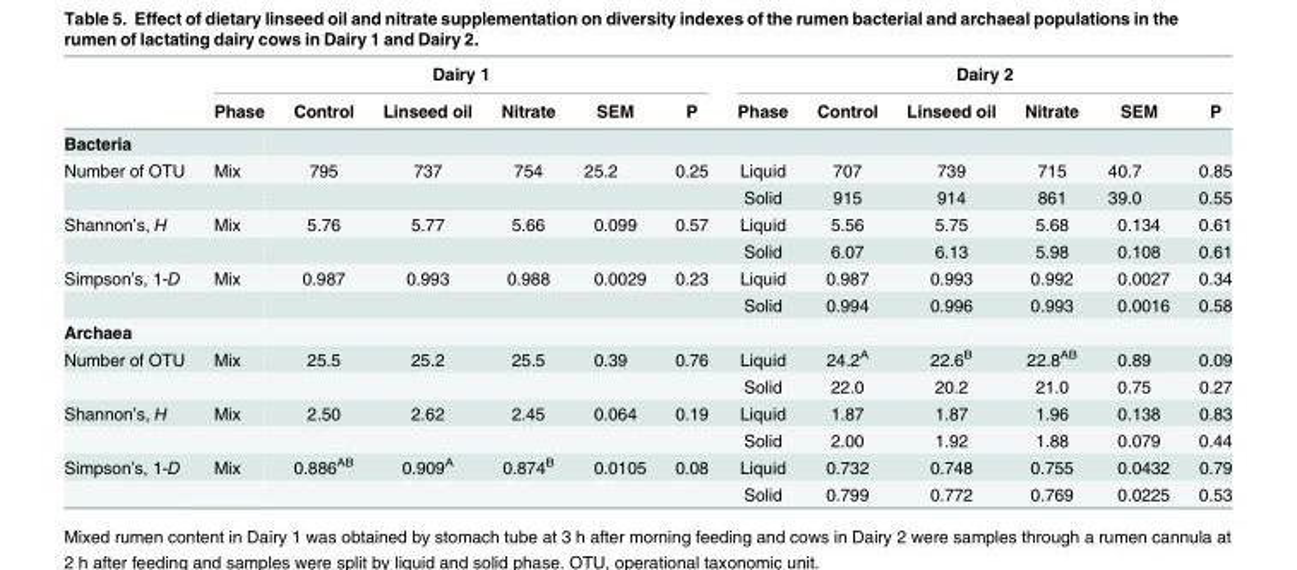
<table><thead><tr><td rowspan="2"></td><td colspan="6">Dairy 1</td><td colspan="6">Dairy 2</td></tr><tr><td>Phase</td><td>Control</td><td>Linseed oil</td><td>Nitrate</td><td>SEM</td><td>P</td><td>Phase</td><td>Control</td><td>Linseed oil</td><td>Nitrate</td><td>SEM</td><td>P</td></tr></thead><tbody><tr><td colspan="13">Bacteria</td></tr><tr><td rowspan="2">Number of OTU</td><td>Mix</td><td>795</td><td>737</td><td>754</td><td>25.2</td><td>0.25</td><td>Liquid</td><td>707</td><td>739</td><td>715</td><td>40.7</td><td>0.85</td></tr><tr><td></td><td></td><td></td><td></td><td></td><td></td><td>Solid</td><td>915</td><td>914</td><td>861</td><td>39.0</td><td>0.55</td></tr><tr><td rowspan="2">Shannon’s, H</td><td>Mix</td><td>5.76</td><td>5.77</td><td>5.66</td><td>0.099</td><td>0.57</td><td>Liquid</td><td>5.56</td><td>5.75</td><td>5.68</td><td>0.134</td><td>0.61</td></tr><tr><td></td><td></td><td></td><td></td><td></td><td></td><td>Solid</td><td>6.07</td><td>6.13</td><td>5.98</td><td>0.108</td><td>0.61</td></tr><tr><td rowspan="2">Simpson’s, 1-D</td><td>Mix</td><td>0.987</td><td>0.993</td><td>0.988</td><td>0.0029</td><td>0.23</td><td>Liquid</td><td>0.987</td><td>0.993</td><td>0.992</td><td>0.0027</td><td>0.34</td></tr><tr><td></td><td></td><td></td><td></td><td></td><td></td><td>Solid</td><td>0.994</td><td>0.996</td><td>0.993</td><td>0.0016</td><td>0.58</td></tr><tr><td colspan="13">Archaea</td></tr><tr><td rowspan="2">Number of OTU</td><td>Mix</td><td>25.5</td><td>25.2</td><td>25.5</td><td>0.39</td><td>0.76</td><td>Liquid</td><td>24.2<sup>A</sup></td><td>22.6<sup>B</sup></td><td>22.8<sup>AB</sup></td><td>0.89</td><td>0.09</td></tr><tr><td></td><td></td><td></td><td></td><td></td><td></td><td>Solid</td><td>22.0</td><td>20.2</td><td>21.0</td><td>0.75</td><td>0.27</td></tr><tr><td rowspan="2">Shannon’s, H</td><td>Mix</td><td>2.50</td><td>2.62</td><td>2.45</td><td>0.064</td><td>0.19</td><td>Liquid</td><td>1.87</td><td>1.87</td><td>1.96</td><td>0.138</td><td>0.83</td></tr><tr><td></td><td></td><td></td><td></td><td></td><td></td><td>Solid</td><td>2.00</td><td>1.92</td><td>1.88</td><td>0.079</td><td>0.44</td></tr><tr><td rowspan="2">Simpson’s, 1-D</td><td>Mix</td><td>0.886<sup>AB</sup></td><td>0.909<sup>A</sup></td><td>0.874<sup>B</sup></td><td>0.0105</td><td>0.08</td><td>Liquid</td><td>0.732</td><td>0.748</td><td>0.755</td><td>0.0432</td><td>0.79</td></tr><tr><td></td><td></td><td></td><td></td><td></td><td></td><td>Solid</td><td>0.799</td><td>0.772</td><td>0.769</td><td>0.0225</td><td>0.53</td></tr></tbody></table>